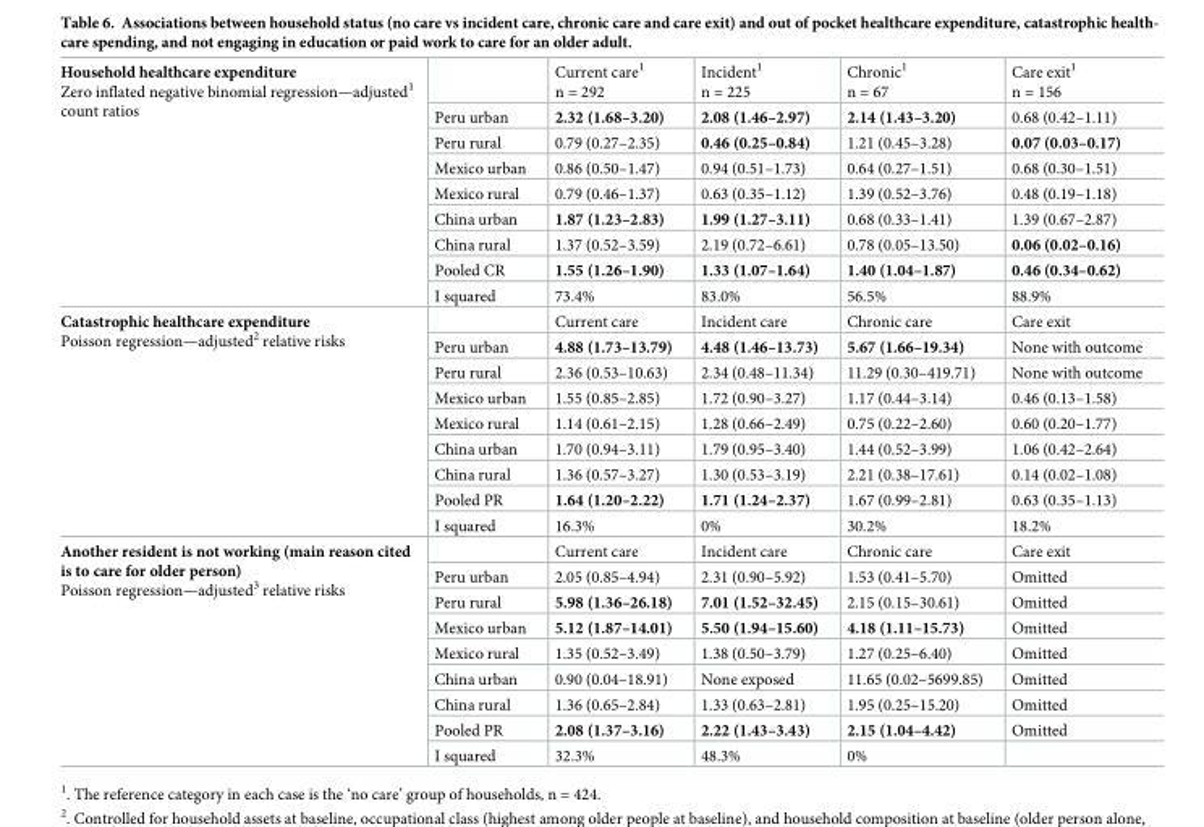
<table><tbody><tr><td rowspan="9">Household healthcare expenditure Zero inflated negative binomial regression—adjusted<sup>1</sup> count ratios</td><td></td><td>Current care<sup>1</sup> n = 292</td><td>Incident<sup>1</sup> n = 225</td><td>Chronic<sup>1</sup> n = 67</td><td>Care exit<sup>1</sup> n = 156</td></tr><tr><td>Peru urban</td><td>2.32 (1.68–3.20)</td><td>2.08 (1.46–2.97)</td><td>2.14 (1.43–3.20)</td><td>0.68 (0.42–1.11)</td></tr><tr><td>Peru rural</td><td>0.79 (0.27–2.35)</td><td>0.46 (0.25–0.84)</td><td>1.21 (0.45–3.28)</td><td>0.07 (0.03–0.17)</td></tr><tr><td>Mexico urban</td><td>0.86 (0.50–1.47)</td><td>0.94 (0.51–1.73)</td><td>0.64 (0.27–1.51)</td><td>0.68 (0.30–1.51)</td></tr><tr><td>Mexico rural</td><td>0.79 (0.46–1.37)</td><td>0.63 (0.35–1.12)</td><td>1.39 (0.52–3.76)</td><td>0.48 (0.19–1.18)</td></tr><tr><td>China urban</td><td>1.87 (1.23–2.83)</td><td>1.99 (1.27–3.11)</td><td>0.68 (0.33–1.41)</td><td>1.39 (0.67–2.87)</td></tr><tr><td>China rural</td><td>1.37 (0.52–3.59)</td><td>2.19 (0.72–6.61)</td><td>0.78 (0.05–13.50)</td><td>0.06 (0.02–0.16)</td></tr><tr><td>Pooled CR</td><td>1.55 (1.26–1.90)</td><td>1.33 (1.07–1.64)</td><td>1.40 (1.04–1.87)</td><td>0.46 (0.34–0.62)</td></tr><tr><td>I squared</td><td>73.4%</td><td>83.0%</td><td>56.5%</td><td>88.9%</td></tr><tr><td rowspan="9">Catastrophic healthcare expenditure Poisson regression—adjusted<sup>2</sup> relative risks</td><td></td><td>Current care</td><td>Incident care</td><td>Chronic care</td><td>Care exit</td></tr><tr><td>Peru urban</td><td>4.88 (1.73–13.79)</td><td>4.48 (1.46–13.73)</td><td>5.67 (1.66–19.34)</td><td>None with outcome</td></tr><tr><td>Peru rural</td><td>2.36 (0.53–10.63)</td><td>2.34 (0.48–11.34)</td><td>11.29 (0.30–419.71)</td><td>None with outcome</td></tr><tr><td>Mexico urban</td><td>1.55 (0.85–2.85)</td><td>1.72 (0.90–3.27)</td><td>1.17 (0.44–3.14)</td><td>0.46 (0.13–1.58)</td></tr><tr><td>Mexico rural</td><td>1.14 (0.61–2.15)</td><td>1.28 (0.66–2.49)</td><td>0.75 (0.22–2.60)</td><td>0.60 (0.20–1.77)</td></tr><tr><td>China urban</td><td>1.70 (0.94–3.11)</td><td>1.79 (0.95–3.40)</td><td>1.44 (0.52–3.99)</td><td>1.06 (0.42–2.64)</td></tr><tr><td>China rural</td><td>1.36 (0.57–3.27)</td><td>1.30 (0.53–3.19)</td><td>2.21 (0.38–17.61)</td><td>0.14 (0.02–1.08)</td></tr><tr><td>Pooled PR</td><td>1.64 (1.20–2.22)</td><td>1.71 (1.24–2.37)</td><td>1.67 (0.99–2.81)</td><td>0.63 (0.35–1.13)</td></tr><tr><td>I squared</td><td>16.3%</td><td>0%</td><td>30.2%</td><td>18.2%</td></tr><tr><td rowspan="9">Another resident is not working (main reason cited is to care for older person) Poisson regression—adjusted<sup>3</sup> relative risks</td><td></td><td>Current care</td><td>Incident care</td><td>Chronic care</td><td>Care exit</td></tr><tr><td>Peru urban</td><td>2.05 (0.85–4.94)</td><td>2.31 (0.90–5.92)</td><td>1.53 (0.41–5.70)</td><td>Omitted</td></tr><tr><td>Peru rural</td><td>5.98 (1.36–26.18)</td><td>7.01 (1.52–32.45)</td><td>2.15 (0.15–30.61)</td><td>Omitted</td></tr><tr><td>Mexico urban</td><td>5.12 (1.87–14.01)</td><td>5.50 (1.94–15.60)</td><td>4.18 (1.11–15.73)</td><td>Omitted</td></tr><tr><td>Mexico rural</td><td>1.35 (0.52–3.49)</td><td>1.38 (0.50–3.79)</td><td>1.27 (0.25–6.40)</td><td>Omitted</td></tr><tr><td>China urban</td><td>0.90 (0.04–18.91)</td><td>None exposed</td><td>11.65 (0.02–5699.85)</td><td>Omitted</td></tr><tr><td>China rural</td><td>1.36 (0.65–2.84)</td><td>1.33 (0.63–2.81)</td><td>1.95 (0.25–15.20)</td><td>Omitted</td></tr><tr><td>Pooled PR</td><td>2.08 (1.37–3.16)</td><td>2.22 (1.43–3.43)</td><td>2.15 (1.04–4.42)</td><td>Omitted</td></tr><tr><td>I squared</td><td>32.3%</td><td>48.3%</td><td>0%</td><td></td></tr></tbody></table>